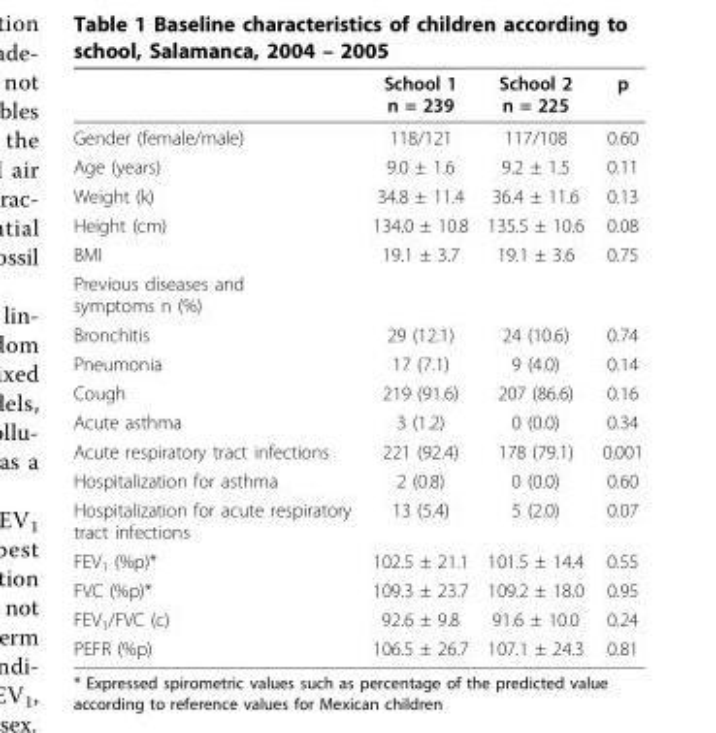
<table><thead><tr><td></td><td>School 1 n = 239</td><td>School 2 n = 225</td><td>p</td></tr></thead><tbody><tr><td>Gender (female/male)</td><td>118/121</td><td>117/108</td><td>0.60</td></tr><tr><td>Age (years)</td><td>9.0 ± 1.6</td><td>9.2 ± 1.5</td><td>0.11</td></tr><tr><td>Weight (k)</td><td>34.8 ± 11.4</td><td>36.4 ± 11.6</td><td>0.13</td></tr><tr><td>Height (cm)</td><td>134.0 ± 10.8</td><td>135.5 ± 10.6</td><td>0.08</td></tr><tr><td>BMI</td><td>19.1 ± 3.7</td><td>19.1 ± 3.6</td><td>0.75</td></tr><tr><td colspan="4">Previous diseases and symptoms n (%)</td></tr><tr><td>Bronchitis</td><td>29 (12.1)</td><td>24 (10.6)</td><td>0.74</td></tr><tr><td>Pneumonia</td><td>17 (7.1)</td><td>9 (4.0)</td><td>0.14</td></tr><tr><td>Cough</td><td>219 (91.6)</td><td>207 (86.6)</td><td>0.16</td></tr><tr><td>Acute asthma</td><td>3 (1.2)</td><td>0 (0.0)</td><td>0.34</td></tr><tr><td>Acute respiratory tract infections</td><td>221 (92.4)</td><td>178 (79.1)</td><td>0.001</td></tr><tr><td>Hospitalization for asthma</td><td>2 (0.8)</td><td>0 (0.0)</td><td>0.60</td></tr><tr><td>Hospitalization for acute respiratory tract infections</td><td>13 (5.4)</td><td>5 (2.0)</td><td>0.07</td></tr><tr><td>FEV<sub>1</sub> (%p)*</td><td>102.5 ± 21.1</td><td>101.5 ± 14.4</td><td>0.55</td></tr><tr><td>FVC (%p)*</td><td>109.3 ± 23.7</td><td>109.2 ± 18.0</td><td>0.95</td></tr><tr><td>FEV<sub>1</sub>/FVC (c)</td><td>92.6 ± 9.8</td><td>91.6 ± 10.0</td><td>0.24</td></tr><tr><td>PEFR (%p)</td><td>106.5 ± 26.7</td><td>107.1 ± 24.3</td><td>0.81</td></tr></tbody></table>